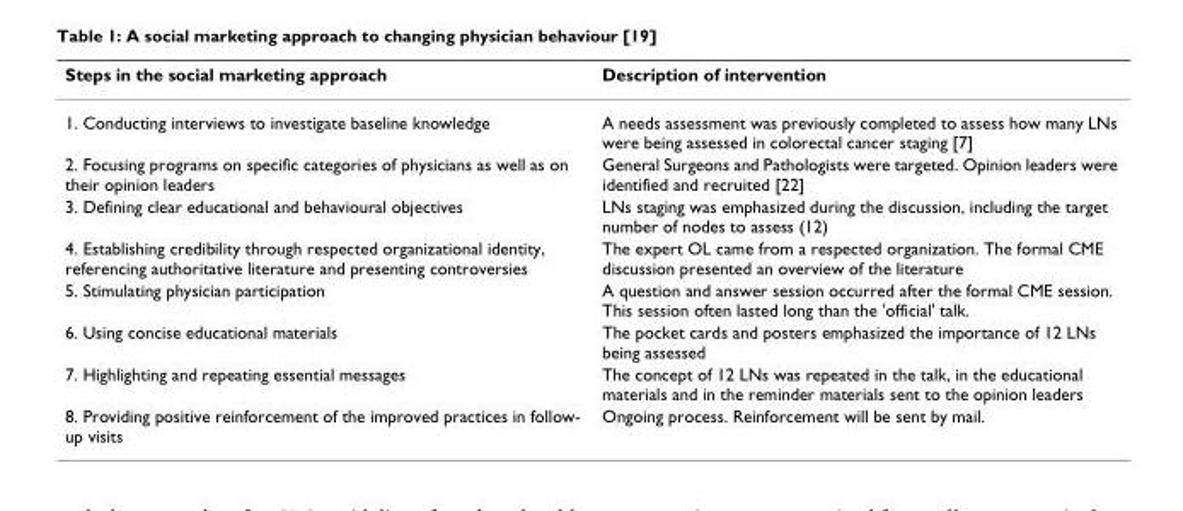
<table><thead><tr><td>Steps in the social marketing approach</td><td>Description of intervention</td></tr></thead><tbody><tr><td>1. Conducting interviews to investigate baseline knowledge</td><td>A needs assessment was previously completed to assess how many LNs were being assessed in colorectal cancer staging [7]</td></tr><tr><td>2. Focusing programs on specific categories of physicians as well as on their opinion leaders</td><td>General Surgeons and Pathologists were targeted. Opinion leaders were identified and recruited [22]</td></tr><tr><td>3. Defining clear educational and behavioural objectives</td><td>LNs staging was emphasized during the discussion, including the target number of nodes to assess (12)</td></tr><tr><td>4. Establishing credibility through respected organizational identity, referencing authoritative literature and presenting controversies</td><td>The expert OL came from a respected organization. The formal CME discussion presented an overview of the literature</td></tr><tr><td>5. Stimulating physician participation</td><td>A question and answer session occurred after the formal CME session. This session often lasted long than the &#x27;official&#x27; talk.</td></tr><tr><td>6. Using concise educational materials</td><td>The pocket cards and posters emphasized the importance of 12 LNs being assessed</td></tr><tr><td>7. Highlighting and repeating essential messages</td><td>The concept of 12 LNs was repeated in the talk, in the educational materials and in the reminder materials sent to the opinion leaders</td></tr><tr><td>8. Providing positive reinforcement of the improved practices in follow- up visits</td><td>Ongoing process. Reinforcement will be sent by mail.</td></tr></tbody></table>